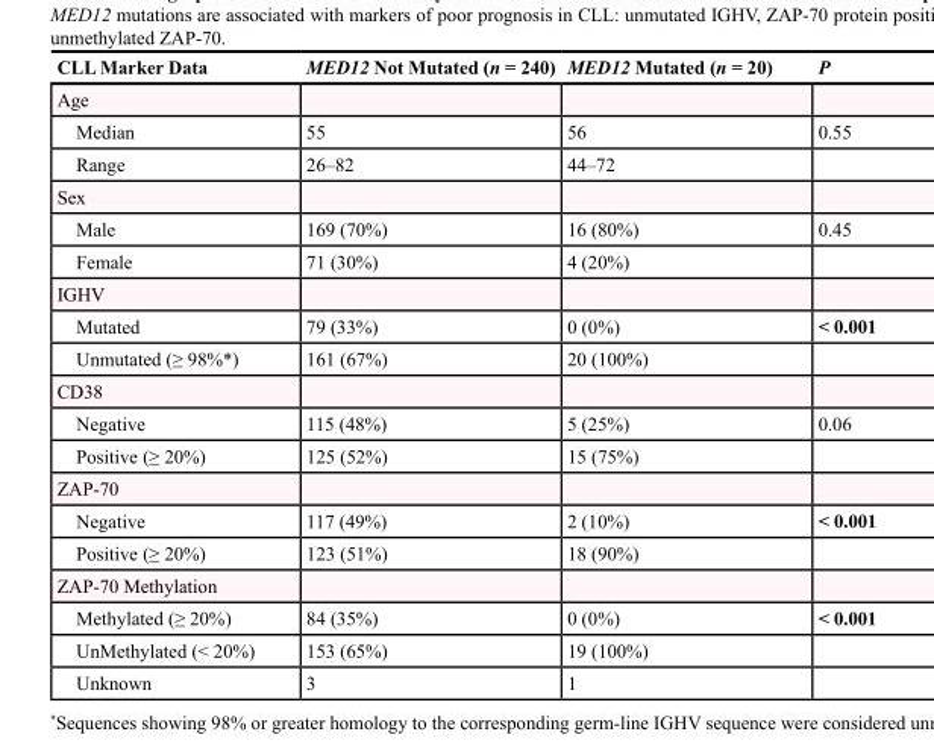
<table><thead><tr><td>CLL Marker Data</td><td>MED12 Not Mutated (n = 240)</td><td>MED12 Mutated (n = 20)</td><td>P</td></tr></thead><tbody><tr><td colspan="4">Age</td></tr><tr><td>Median</td><td>55</td><td>56</td><td>0.55</td></tr><tr><td>Range</td><td>26–82</td><td>44–72</td><td></td></tr><tr><td colspan="4">Sex</td></tr><tr><td>Male</td><td>169 (70%)</td><td>16 (80%)</td><td>0.45</td></tr><tr><td>Female</td><td>71 (30%)</td><td>4 (20%)</td><td></td></tr><tr><td colspan="4">IGHV</td></tr><tr><td>Mutated</td><td>79 (33%)</td><td>0 (0%)</td><td>&lt; 0.001</td></tr><tr><td>Unmutated (≥ 98%*)</td><td>161 (67%)</td><td>20 (100%)</td><td></td></tr><tr><td colspan="4">CD38</td></tr><tr><td>Negative</td><td>115 (48%)</td><td>5 (25%)</td><td>0.06</td></tr><tr><td>Positive (≥ 20%)</td><td>125 (52%)</td><td>15 (75%)</td><td></td></tr><tr><td colspan="4">ZAP-70</td></tr><tr><td>Negative</td><td>117 (49%)</td><td>2 (10%)</td><td>&lt; 0.001</td></tr><tr><td>Positive (≥ 20%)</td><td>123 (51%)</td><td>18 (90%)</td><td></td></tr><tr><td colspan="4">ZAP-70 Methylation</td></tr><tr><td>Methylated (≥ 20%)</td><td>84 (35%)</td><td>0 (0%)</td><td>&lt; 0.001</td></tr><tr><td>UnMethylated (&lt; 20%)</td><td>153 (65%)</td><td>19 (100%)</td><td></td></tr><tr><td>Unknown</td><td>3</td><td>1</td><td></td></tr></tbody></table>